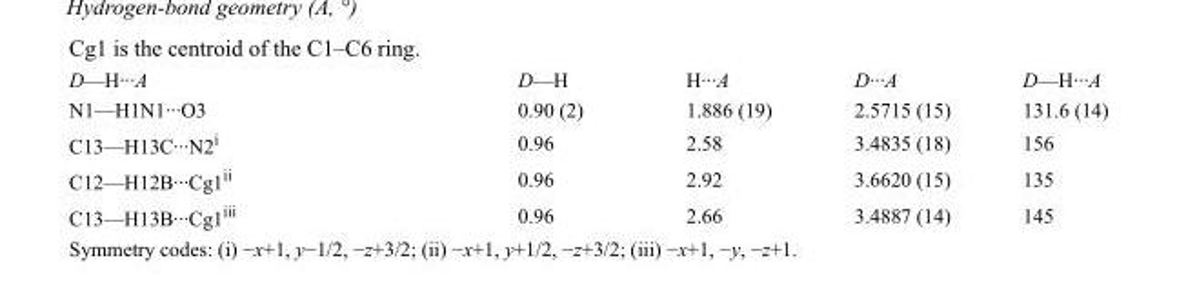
<table><tbody><tr><td>D—H···A</td><td>D—H</td><td>H···A</td><td>D···A</td><td>D—H···A</td></tr><tr><td>N1—H1N1···O3</td><td>0.90 (2)</td><td>1.886 (19)</td><td>2.5715 (15)</td><td>131.6 (14)</td></tr><tr><td>C13—H13C···N2<sup>i</sup></td><td>0.96</td><td>2.58</td><td>3.4835 (18)</td><td>156</td></tr><tr><td>C12—H12B···Cg1<sup>ii</sup></td><td>0.96</td><td>2.92</td><td>3.6620 (15)</td><td>135</td></tr><tr><td>C13—H13B···Cg1<sup>iii</sup></td><td>0.96</td><td>2.66</td><td>3.4887 (14)</td><td>145</td></tr></tbody></table>